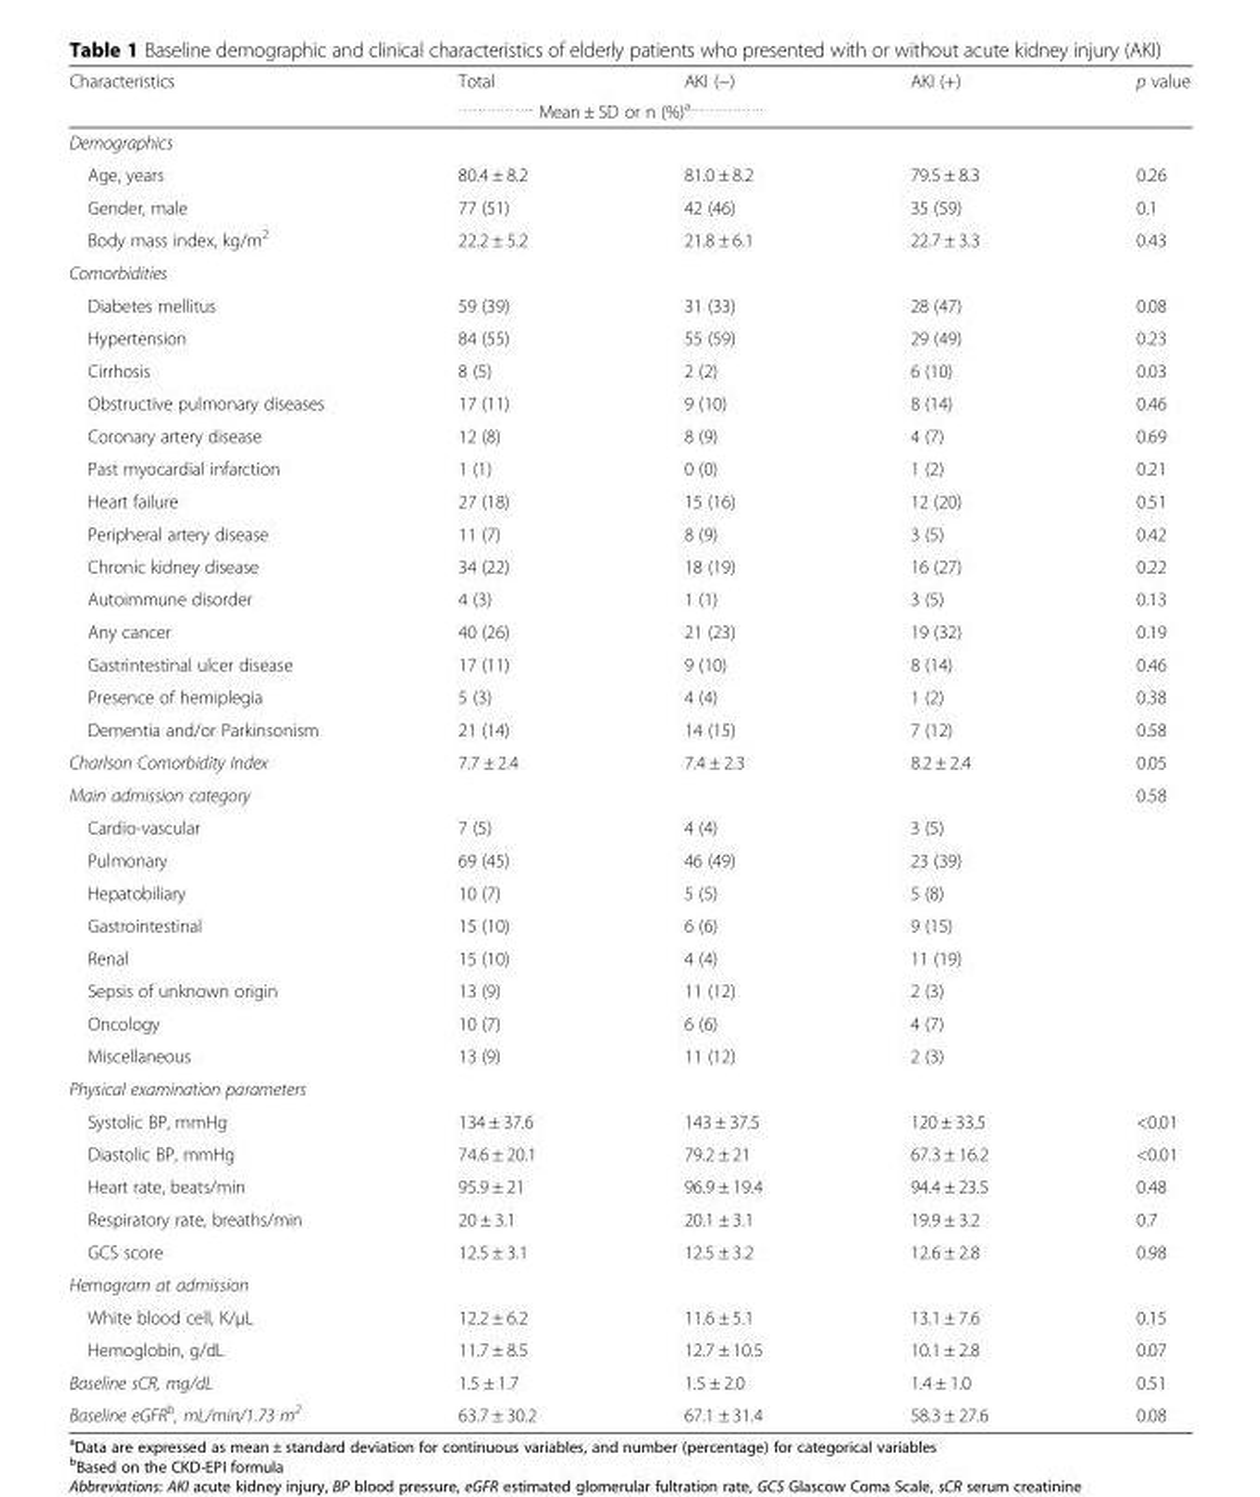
<table><thead><tr><td rowspan="2">Characteristics</td><td>Total</td><td>AKI (−)</td><td>AKI (+)</td><td rowspan="2">p value</td></tr><tr><td colspan="3"><sup>……………..</sup> Mean ± SD or n (%)<sup>a…………….</sup></td></tr></thead><tbody><tr><td colspan="5">Demographics</td></tr><tr><td>Age, years</td><td>80.4 ± 8.2</td><td>81.0 ± 8.2</td><td>79.5 ± 8.3</td><td>0.26</td></tr><tr><td>Gender, male</td><td>77 (51)</td><td>42 (46)</td><td>35 (59)</td><td>0.1</td></tr><tr><td>Body mass index, kg/m<sup>2</sup></td><td>22.2 ± 5.2</td><td>21.8 ± 6.1</td><td>22.7 ± 3.3</td><td>0.43</td></tr><tr><td colspan="5">Comorbidities</td></tr><tr><td>Diabetes mellitus</td><td>59 (39)</td><td>31 (33)</td><td>28 (47)</td><td>0.08</td></tr><tr><td>Hypertension</td><td>84 (55)</td><td>55 (59)</td><td>29 (49)</td><td>0.23</td></tr><tr><td>Cirrhosis</td><td>8 (5)</td><td>2 (2)</td><td>6 (10)</td><td>0.03</td></tr><tr><td>Obstructive pulmonary diseases</td><td>17 (11)</td><td>9 (10)</td><td>8 (14)</td><td>0.46</td></tr><tr><td>Coronary artery disease</td><td>12 (8)</td><td>8 (9)</td><td>4 (7)</td><td>0.69</td></tr><tr><td>Past myocardial infarction</td><td>1 (1)</td><td>0 (0)</td><td>1 (2)</td><td>0.21</td></tr><tr><td>Heart failure</td><td>27 (18)</td><td>15 (16)</td><td>12 (20)</td><td>0.51</td></tr><tr><td>Peripheral artery disease</td><td>11 (7)</td><td>8 (9)</td><td>3 (5)</td><td>0.42</td></tr><tr><td>Chronic kidney disease</td><td>34 (22)</td><td>18 (19)</td><td>16 (27)</td><td>0.22</td></tr><tr><td>Autoimmune disorder</td><td>4 (3)</td><td>1 (1)</td><td>3 (5)</td><td>0.13</td></tr><tr><td>Any cancer</td><td>40 (26)</td><td>21 (23)</td><td>19 (32)</td><td>0.19</td></tr><tr><td>Gastrintestinal ulcer disease</td><td>17 (11)</td><td>9 (10)</td><td>8 (14)</td><td>0.46</td></tr><tr><td>Presence of hemiplegia</td><td>5 (3)</td><td>4 (4)</td><td>1 (2)</td><td>0.38</td></tr><tr><td>Dementia and/or Parkinsonism</td><td>21 (14)</td><td>14 (15)</td><td>7 (12)</td><td>0.58</td></tr><tr><td>Charlson Comorbidity Index</td><td>7.7 ± 2.4</td><td>7.4 ± 2.3</td><td>8.2 ± 2.4</td><td>0.05</td></tr><tr><td>Main admission category</td><td></td><td></td><td></td><td>0.58</td></tr><tr><td>Cardio-vascular</td><td>7 (5)</td><td>4 (4)</td><td>3 (5)</td><td></td></tr><tr><td>Pulmonary</td><td>69 (45)</td><td>46 (49)</td><td>23 (39)</td><td></td></tr><tr><td>Hepatobiliary</td><td>10 (7)</td><td>5 (5)</td><td>5 (8)</td><td></td></tr><tr><td>Gastrointestinal</td><td>15 (10)</td><td>6 (6)</td><td>9 (15)</td><td></td></tr><tr><td>Renal</td><td>15 (10)</td><td>4 (4)</td><td>11 (19)</td><td></td></tr><tr><td>Sepsis of unknown origin</td><td>13 (9)</td><td>11 (12)</td><td>2 (3)</td><td></td></tr><tr><td>Oncology</td><td>10 (7)</td><td>6 (6)</td><td>4 (7)</td><td></td></tr><tr><td>Miscellaneous</td><td>13 (9)</td><td>11 (12)</td><td>2 (3)</td><td></td></tr><tr><td colspan="5">Physical examination parameters</td></tr><tr><td>Systolic BP, mmHg</td><td>134 ± 37.6</td><td>143 ± 37.5</td><td>120 ± 33.5</td><td>&lt;0.01</td></tr><tr><td>Diastolic BP, mmHg</td><td>74.6 ± 20.1</td><td>79.2 ± 21</td><td>67.3 ± 16.2</td><td>&lt;0.01</td></tr><tr><td>Heart rate, beats/min</td><td>95.9 ± 21</td><td>96.9 ± 19.4</td><td>94.4 ± 23.5</td><td>0.48</td></tr><tr><td>Respiratory rate, breaths/min</td><td>20 ± 3.1</td><td>20.1 ± 3.1</td><td>19.9 ± 3.2</td><td>0.7</td></tr><tr><td>GCS score</td><td>12.5 ± 3.1</td><td>12.5 ± 3.2</td><td>12.6 ± 2.8</td><td>0.98</td></tr><tr><td colspan="5">Hemogram at admission</td></tr><tr><td>White blood cell, K/μL</td><td>12.2 ± 6.2</td><td>11.6 ± 5.1</td><td>13.1 ± 7.6</td><td>0.15</td></tr><tr><td>Hemoglobin, g/dL</td><td>11.7 ± 8.5</td><td>12.7 ± 10.5</td><td>10.1 ± 2.8</td><td>0.07</td></tr><tr><td>Baseline sCR, mg/dL</td><td>1.5 ± 1.7</td><td>1.5 ± 2.0</td><td>1.4 ± 1.0</td><td>0.51</td></tr><tr><td>Baseline eGFR<sup>b</sup>, mL/min/1.73 m<sup>2</sup></td><td>63.7 ± 30.2</td><td>67.1 ± 31.4</td><td>58.3 ± 27.6</td><td>0.08</td></tr></tbody></table>